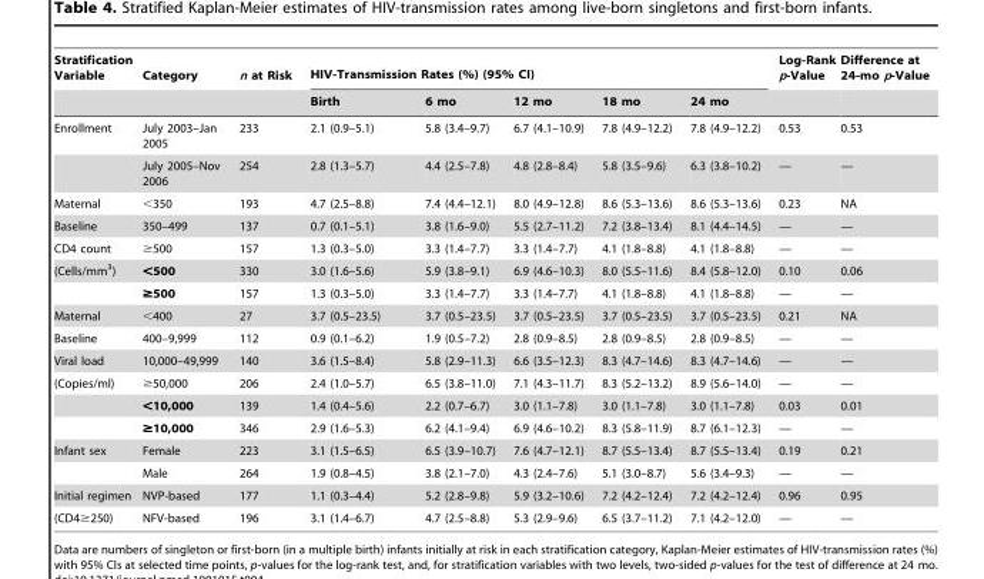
<table><thead><tr><td rowspan="2">Stratification Variable</td><td rowspan="2">Category</td><td rowspan="2">n at Risk</td><td colspan="5">HIV-Transmission Rates (%) (95% CI)</td><td rowspan="2">Log-Rank p-Value</td><td rowspan="2">Difference at 24-mo p-Value</td></tr><tr><td>Birth</td><td>6 mo</td><td>12 mo</td><td>18 mo</td><td>24 mo</td></tr></thead><tbody><tr><td rowspan="2">Enrollment</td><td>July 2003–Jan 2005</td><td>233</td><td>2.1 (0.9–5.1)</td><td>5.8 (3.4–9.7)</td><td>6.7 (4.1–10.9)</td><td>7.8 (4.9–12.2)</td><td>7.8 (4.9–12.2)</td><td>0.53</td><td>0.53</td></tr><tr><td>July 2005–Nov 2006</td><td>254</td><td>2.8 (1.3–5.7)</td><td>4.4 (2.5–7.8)</td><td>4.8 (2.8–8.4)</td><td>5.8 (3.5–9.6)</td><td>6.3 (3.8–10.2)</td><td>—</td><td>—</td></tr><tr><td>Maternal</td><td>&lt;350</td><td>193</td><td>4.7 (2.5–8.8)</td><td>7.4 (4.4–12.1)</td><td>8.0 (4.9–12.8)</td><td>8.6 (5.3–13.6)</td><td>8.6 (5.3–13.6)</td><td>0.23</td><td>NA</td></tr><tr><td>Baseline</td><td>350–499</td><td>137</td><td>0.7 (0.1–5.1)</td><td>3.8 (1.6–9.0)</td><td>5.5 (2.7–11.2)</td><td>7.2 (3.8–13.4)</td><td>8.1 (4.4–14.5)</td><td>—</td><td>—</td></tr><tr><td>CD4 count</td><td>≥500</td><td>157</td><td>1.3 (0.3–5.0)</td><td>3.3 (1.4–7.7)</td><td>3.3 (1.4–7.7)</td><td>4.1 (1.8–8.8)</td><td>4.1 (1.8–8.8)</td><td>—</td><td>—</td></tr><tr><td rowspan="2">(Cells/mm<sup>3</sup>)</td><td>&lt;500</td><td>330</td><td>3.0 (1.6–5.6)</td><td>5.9 (3.8–9.1)</td><td>6.9 (4.6–10.3)</td><td>8.0 (5.5–11.6)</td><td>8.4 (5.8–12.0)</td><td>0.10</td><td>0.06</td></tr><tr><td>≥500</td><td>157</td><td>1.3 (0.3–5.0)</td><td>3.3 (1.4–7.7)</td><td>3.3 (1.4–7.7)</td><td>4.1 (1.8–8.8)</td><td>4.1 (1.8–8.8)</td><td>—</td><td>—</td></tr><tr><td>Maternal</td><td>&lt;400</td><td>27</td><td>3.7 (0.5–23.5)</td><td>3.7 (0.5–23.5)</td><td>3.7 (0.5–23.5)</td><td>3.7 (0.5–23.5)</td><td>3.7 (0.5–23.5)</td><td>0.21</td><td>NA</td></tr><tr><td>Baseline</td><td>400–9,999</td><td>112</td><td>0.9 (0.1–6.2)</td><td>1.9 (0.5–7.2)</td><td>2.8 (0.9–8.5)</td><td>2.8 (0.9–8.5)</td><td>2.8 (0.9–8.5)</td><td>—</td><td>—</td></tr><tr><td>Viral load</td><td>10,000–49,999</td><td>140</td><td>3.6 (1.5–8.4)</td><td>5.8 (2.9–11.3)</td><td>6.6 (3.5–12.3)</td><td>8.3 (4.7–14.6)</td><td>8.3 (4.7–14.6)</td><td>—</td><td>—</td></tr><tr><td rowspan="3">(Copies/ml)</td><td>≥50,000</td><td>206</td><td>2.4 (1.0–5.7)</td><td>6.5 (3.8–11.0)</td><td>7.1 (4.3–11.7)</td><td>8.3 (5.2–13.2)</td><td>8.9 (5.6–14.0)</td><td>—</td><td>—</td></tr><tr><td>&lt;10,000</td><td>139</td><td>1.4 (0.4–5.6)</td><td>2.2 (0.7–6.7)</td><td>3.0 (1.1–7.8)</td><td>3.0 (1.1–7.8)</td><td>3.0 (1.1–7.8)</td><td>0.03</td><td>0.01</td></tr><tr><td>≥10,000</td><td>346</td><td>2.9 (1.6–5.3)</td><td>6.2 (4.1–9.4)</td><td>6.9 (4.6–10.2)</td><td>8.3 (5.8–11.9)</td><td>8.7 (6.1–12.3)</td><td>—</td><td>—</td></tr><tr><td rowspan="2">Infant sex</td><td>Female</td><td>223</td><td>3.1 (1.5–6.5)</td><td>6.5 (3.9–10.7)</td><td>7.6 (4.7–12.1)</td><td>8.7 (5.5–13.4)</td><td>8.7 (5.5–13.4)</td><td>0.19</td><td>0.21</td></tr><tr><td>Male</td><td>264</td><td>1.9 (0.8–4.5)</td><td>3.8 (2.1–7.0)</td><td>4.3 (2.4–7.6)</td><td>5.1 (3.0–8.7)</td><td>5.6 (3.4–9.3)</td><td>—</td><td>—</td></tr><tr><td>Initial regimen</td><td>NVP-based</td><td>177</td><td>1.1 (0.3–4.4)</td><td>5.2 (2.8–9.8)</td><td>5.9 (3.2–10.6)</td><td>7.2 (4.2–12.4)</td><td>7.2 (4.2–12.4)</td><td>0.96</td><td>0.95</td></tr><tr><td>(CD4≥250)</td><td>NFV-based</td><td>196</td><td>3.1 (1.4–6.7)</td><td>4.7 (2.5–8.8)</td><td>5.3 (2.9–9.6)</td><td>6.5 (3.7–11.2)</td><td>7.1 (4.2–12.0)</td><td>—</td><td>—</td></tr></tbody></table>